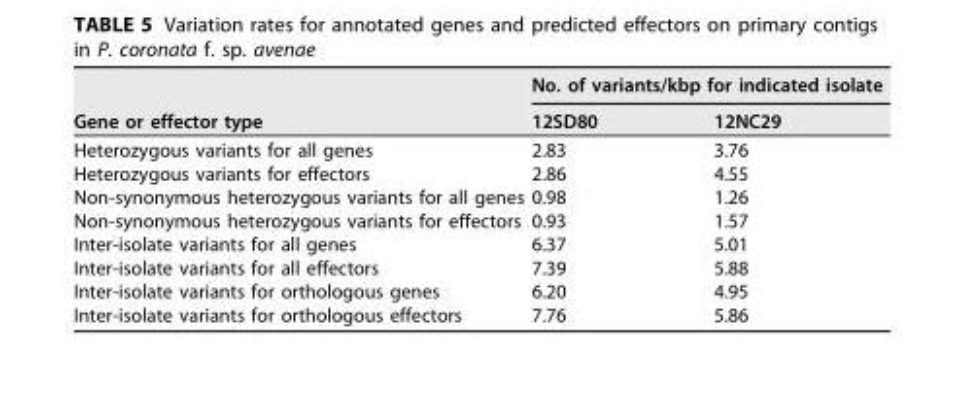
<table><thead><tr><td rowspan="2">Gene or effector type</td><td colspan="2">No. of variants/kbp for indicated isolate</td></tr><tr><td>12SD80</td><td>12NC29</td></tr></thead><tbody><tr><td>Heterozygous variants for all genes</td><td>2.83</td><td>3.76</td></tr><tr><td>Heterozygous variants for effectors</td><td>2.86</td><td>4.55</td></tr><tr><td>Non-synonymous heterozygous variants for all genes</td><td>0.98</td><td>1.26</td></tr><tr><td>Non-synonymous heterozygous variants for effectors</td><td>0.93</td><td>1.57</td></tr><tr><td>Inter-isolate variants for all genes</td><td>6.37</td><td>5.01</td></tr><tr><td>Inter-isolate variants for all effectors</td><td>7.39</td><td>5.88</td></tr><tr><td>Inter-isolate variants for orthologous genes</td><td>6.20</td><td>4.95</td></tr><tr><td>Inter-isolate variants for orthologous effectors</td><td>7.76</td><td>5.86</td></tr></tbody></table>